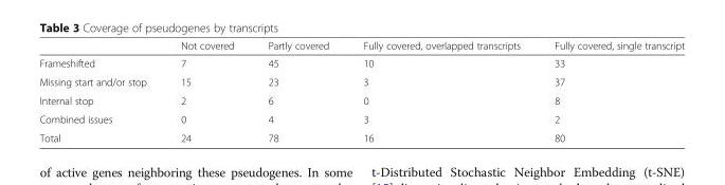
<table><thead><tr><td></td><td>Not covered</td><td>Partly covered</td><td>Fully covered, overlapped transcripts</td><td>Fully covered, single transcript</td></tr></thead><tbody><tr><td>Frameshifted</td><td>7</td><td>45</td><td>10</td><td>33</td></tr><tr><td>Missing start and/or stop</td><td>15</td><td>23</td><td>3</td><td>37</td></tr><tr><td>Internal stop</td><td>2</td><td>6</td><td>0</td><td>8</td></tr><tr><td>Combined issues</td><td>0</td><td>4</td><td>3</td><td>2</td></tr><tr><td>Total</td><td>24</td><td>78</td><td>16</td><td>80</td></tr></tbody></table>